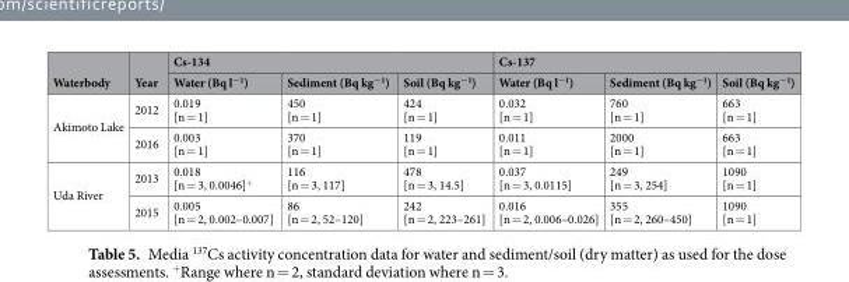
<table><thead><tr><td rowspan="2">Waterbody</td><td rowspan="2">Year</td><td colspan="3">Cs-134</td><td colspan="3">Cs-137</td></tr><tr><td>Water (Bq l<sup>−1</sup>)</td><td>Sediment (Bq kg<sup>−1</sup>)</td><td>Soil (Bq kg<sup>−1</sup>)</td><td>Water (Bq l<sup>−1</sup>)</td><td>Sediment (Bq kg<sup>−1</sup>)</td><td>Soil (Bq kg<sup>−1</sup>)</td></tr></thead><tbody><tr><td rowspan="2">Akimoto Lake</td><td>2012</td><td>0.019 [n = 1]</td><td>450 [n = 1]</td><td>424 [n = 1]</td><td>0.032 [n = 1]</td><td>760 [n = 1]</td><td>663 [n = 1]</td></tr><tr><td>2016</td><td>0.003 [n = 1]</td><td>370 [n = 1]</td><td>119 [n = 1]</td><td>0.011 [n = 1]</td><td>2000 [n = 1]</td><td>663 [n = 1]</td></tr><tr><td rowspan="2">Uda River</td><td>2013</td><td>0.018 [n = 3, 0.0046]<sup>+</sup></td><td>116 [n = 3, 117]</td><td>478 [n = 3, 14.5]</td><td>0.037 [n = 3, 0.0115]</td><td>249 [n = 3, 254]</td><td>1090 [n = 1]</td></tr><tr><td>2015</td><td>0.005 [n = 2, 0.002–0.007]</td><td>86 [n = 2, 52–120]</td><td>242 [n = 2, 223–261]</td><td>0.016 [n = 2, 0.006–0.026]</td><td>355 [n = 2, 260–450]</td><td>1090 [n = 1]</td></tr></tbody></table>